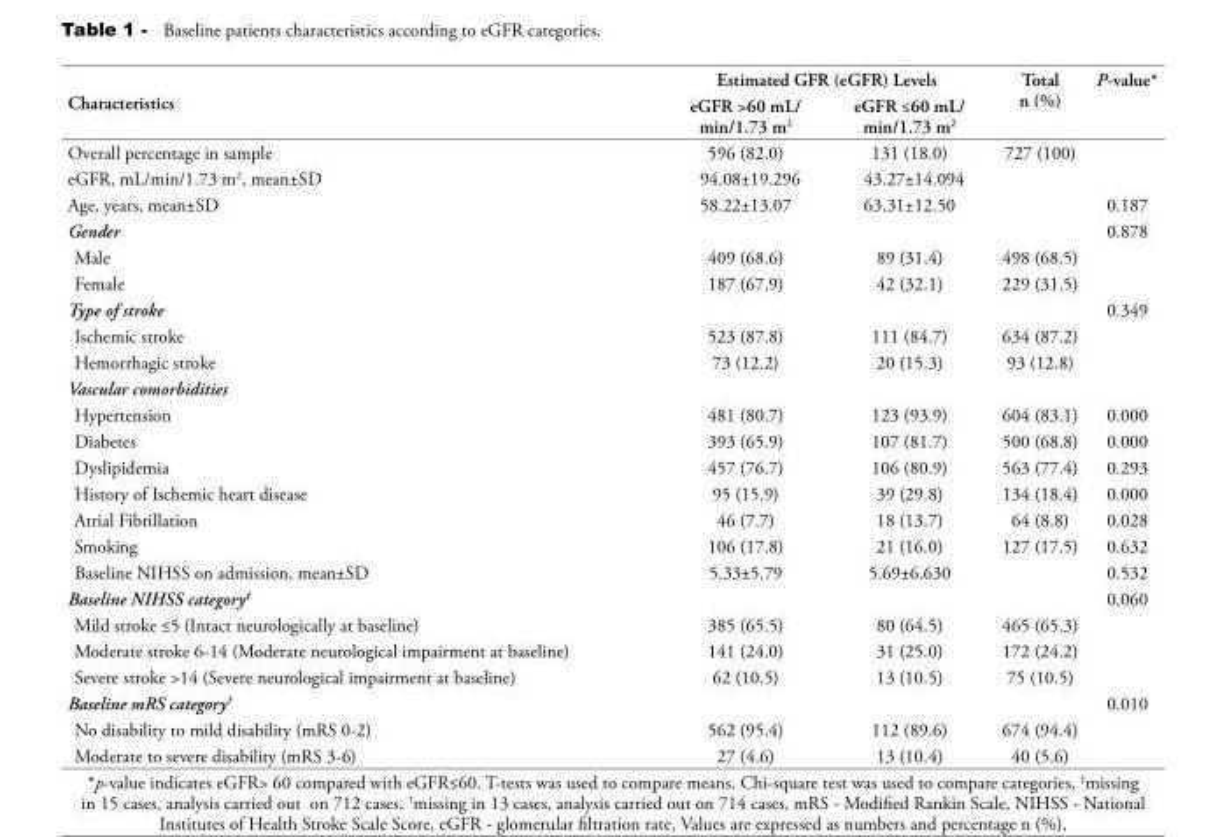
<table><thead><tr><td rowspan="2">Characteristics</td><td colspan="2">Estimated GFR (eGFR) Levels</td><td rowspan="2">Total n (%)</td><td rowspan="2">P-value*</td></tr><tr><td>eGFR &gt;60 mL/ min/1.73 m<sup>2</sup></td><td>eGFR ≤60 mL/ min/1.73 m<sup>2</sup></td></tr></thead><tbody><tr><td>Overall percentage in sample</td><td>596 (82.0)</td><td>131 (18.0)</td><td>727 (100)</td><td></td></tr><tr><td>eGFR, mL/min/1.73 m<sup>2</sup>, mean±SD</td><td>94.08±19.296</td><td>43.27±14.094</td><td></td><td></td></tr><tr><td>Age, years, mean±SD</td><td>58.22±13.07</td><td>63.31±12.50</td><td></td><td>0.187</td></tr><tr><td colspan="3">Gender</td><td></td><td>0.878</td></tr><tr><td>Male</td><td>409 (68.6)</td><td>89 (31.4)</td><td>498 (68.5)</td><td></td></tr><tr><td>Female</td><td>187 (67.9)</td><td>42 (32.1)</td><td>229 (31.5)</td><td></td></tr><tr><td colspan="3">Type of stroke</td><td></td><td>0.349</td></tr><tr><td>Ischemic stroke</td><td>523 (87.8)</td><td>111 (84.7)</td><td>634 (87.2)</td><td></td></tr><tr><td>Hemorrhagic stroke</td><td>73 (12.2)</td><td>20 (15.3)</td><td>93 (12.8)</td><td></td></tr><tr><td colspan="5">Vascular comorbidities</td></tr><tr><td>Hypertension</td><td>481 (80.7)</td><td>123 (93.9)</td><td>604 (83.1)</td><td>0.000</td></tr><tr><td>Diabetes</td><td>393 (65.9)</td><td>107 (81.7)</td><td>500 (68.8)</td><td>0.000</td></tr><tr><td>Dyslipidemia</td><td>457 (76.7)</td><td>106 (80.9)</td><td>563 (77.4)</td><td>0.293</td></tr><tr><td>History of Ischemic heart disease</td><td>95 (15.9)</td><td>39 (29.8)</td><td>134 (18.4)</td><td>0.000</td></tr><tr><td>Atrial Fibrillation</td><td>46 (7.7)</td><td>18 (13.7)</td><td>64 (8.8)</td><td>0.028</td></tr><tr><td>Smoking</td><td>106 (17.8)</td><td>21 (16.0)</td><td>127 (17.5)</td><td>0.632</td></tr><tr><td>Baseline NIHSS on admission, mean±SD</td><td>5.33±5.79</td><td>5.69±6.630</td><td></td><td>0.532</td></tr><tr><td colspan="3">Baseline NIHSS category<sup>‡</sup></td><td></td><td>0.060</td></tr><tr><td>Mild stroke ≤5 (Intact neurologically at baseline)</td><td>385 (65.5)</td><td>80 (64.5)</td><td>465 (65.3)</td><td></td></tr><tr><td>Moderate stroke 6-14 (Moderate neurological impairment at baseline)</td><td>141 (24.0)</td><td>31 (25.0)</td><td>172 (24.2)</td><td></td></tr><tr><td>Severe stroke &gt;14 (Severe neurological impairment at baseline)</td><td>62 (10.5)</td><td>13 (10.5)</td><td>75 (10.5)</td><td></td></tr><tr><td colspan="3">Baseline mRS category<sup>†</sup></td><td></td><td>0.010</td></tr><tr><td>No disability to mild disability (mRS 0-2)</td><td>562 (95.4)</td><td>112 (89.6)</td><td>674 (94.4)</td><td></td></tr><tr><td>Moderate to severe disability (mRS 3-6)</td><td>27 (4.6)</td><td>13 (10.4)</td><td>40 (5.6)</td><td></td></tr></tbody></table>